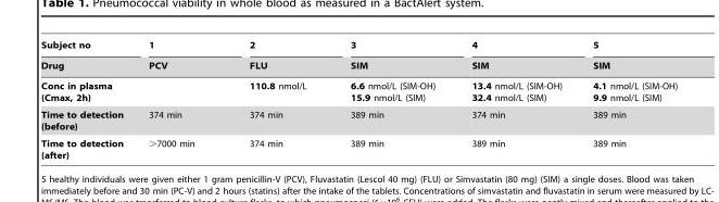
<table><thead><tr><td rowspan="2">Subject no Drug</td><td rowspan="2">1 PCV</td><td rowspan="2">2 FLU</td><td rowspan="2">3 SIM</td><td rowspan="2">4 SIM</td><td rowspan="2">5 SIM</td></tr><tr></tr></thead><tbody><tr><td>Conc in plasma (Cmax, 2h)</td><td></td><td>110.8 nmol/L</td><td>6.6 nmol/L (SIM-OH) 15.9 nmol/L (SIM)</td><td>13.4 nmol/L (SIM-OH) 32.4 nmol/L (SIM)</td><td>4.1 nmol/L (SIM-OH) 9.9 nmol/L (SIM)</td></tr><tr><td>Time to detection (before)</td><td>374 min</td><td>374 min</td><td>389 min</td><td>374 min</td><td>389 min</td></tr><tr><td>Time to detection (after)</td><td>&gt;7000 min</td><td>374 min</td><td>389 min</td><td>389 min</td><td>389 min</td></tr></tbody></table>